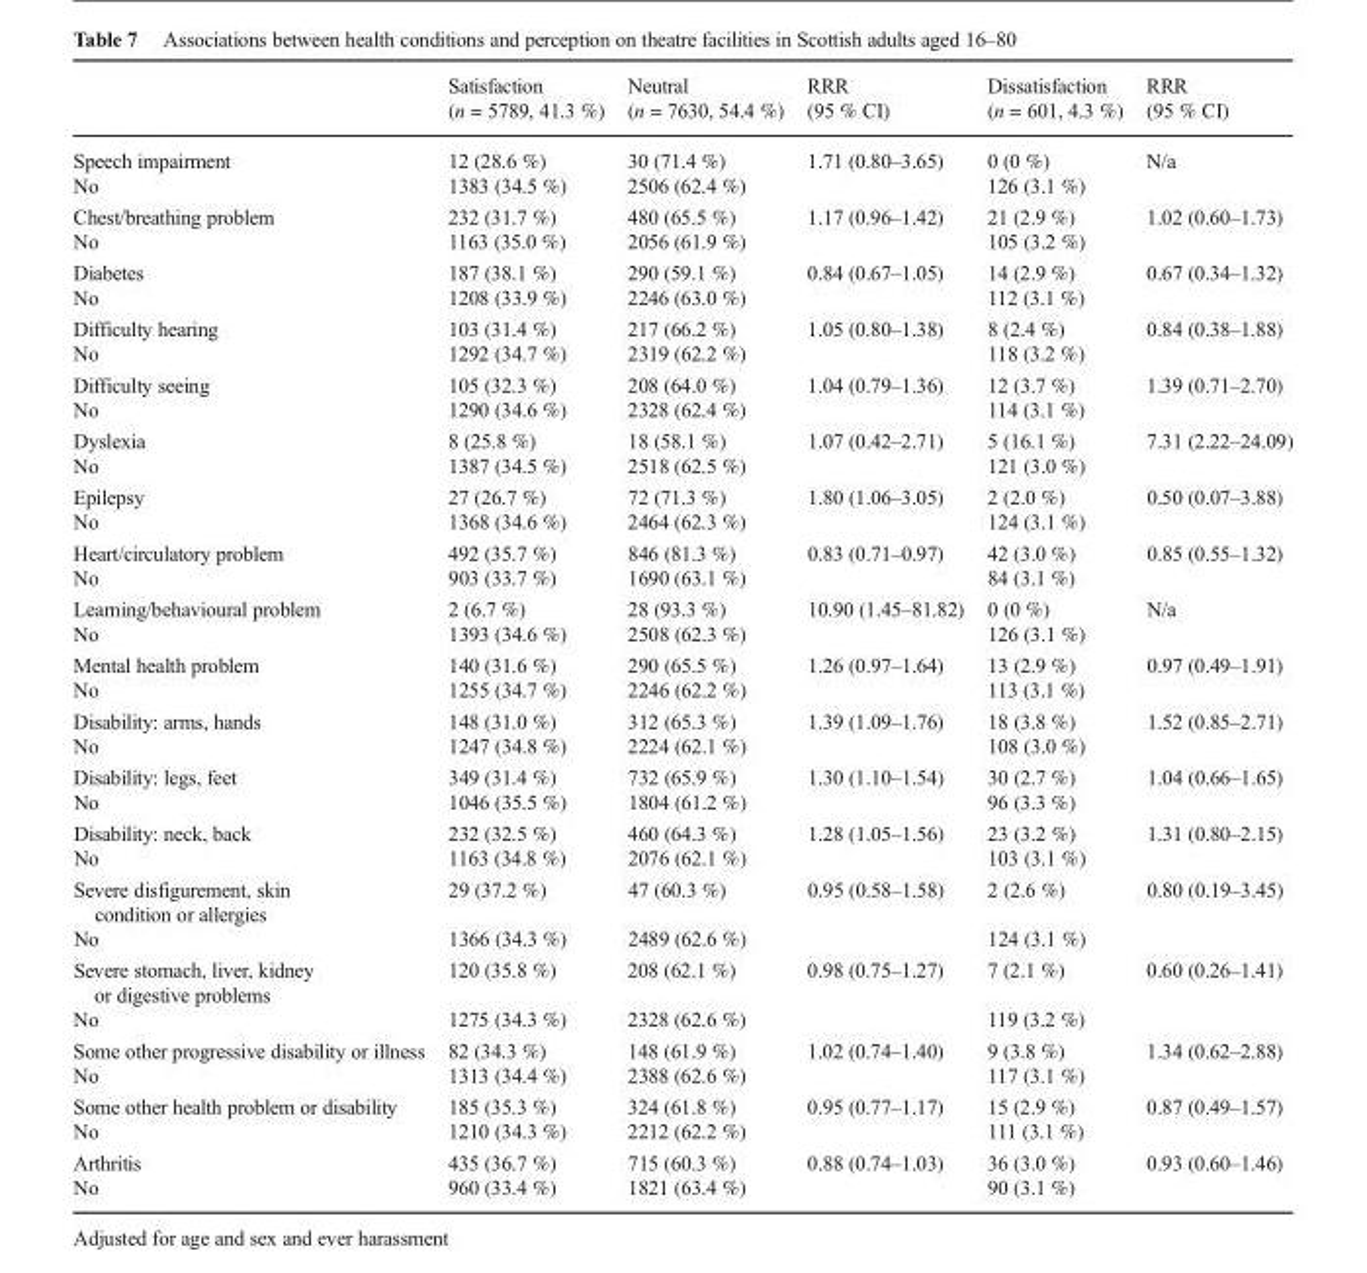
<table><thead><tr><td></td><td>Satisfaction (n = 5789, 41.3 %)</td><td>Neutral (n = 7630, 54.4 %)</td><td>RRR (95 % CI)</td><td>Dissatisfaction (n = 601, 4.3 %)</td><td>RRR (95 % CI)</td></tr></thead><tbody><tr><td>Speech impairment</td><td>12 (28.6 %)</td><td>30 (71.4 %)</td><td rowspan="2">1.71 (0.80–3.65)</td><td>0 (0 %)</td><td rowspan="2">N/a</td></tr><tr><td>No</td><td>1383 (34.5 %)</td><td>2506 (62.4 %)</td><td>126 (3.1 %)</td></tr><tr><td>Chest/breathing problem</td><td>232 (31.7 %)</td><td>480 (65.5 %)</td><td rowspan="2">1.17 (0.96–1.42)</td><td>21 (2.9 %)</td><td rowspan="2">1.02 (0.60–1.73)</td></tr><tr><td>No</td><td>1163 (35.0 %)</td><td>2056 (61.9 %)</td><td>105 (3.2 %)</td></tr><tr><td>Diabetes</td><td>187 (38.1 %)</td><td>290 (59.1 %)</td><td rowspan="2">0.84 (0.67–1.05)</td><td>14 (2.9 %)</td><td rowspan="2">0.67 (0.34–1.32)</td></tr><tr><td>No</td><td>1208 (33.9 %)</td><td>2246 (63.0 %)</td><td>112 (3.1 %)</td></tr><tr><td>Difficulty hearing</td><td>103 (31.4 %)</td><td>217 (66.2 %)</td><td rowspan="2">1.05 (0.80–1.38)</td><td>8 (2.4 %)</td><td rowspan="2">0.84 (0.38–1.88)</td></tr><tr><td>No</td><td>1292 (34.7 %)</td><td>2319 (62.2 %)</td><td>118 (3.2 %)</td></tr><tr><td>Difficulty seeing</td><td>105 (32.3 %)</td><td>208 (64.0 %)</td><td rowspan="2">1.04 (0.79–1.36)</td><td>12 (3.7 %)</td><td rowspan="2">1.39 (0.71–2.70)</td></tr><tr><td>No</td><td>1290 (34.6 %)</td><td>2328 (62.4 %)</td><td>114 (3.1 %)</td></tr><tr><td>Dyslexia</td><td>8 (25.8 %)</td><td>18 (58.1 %)</td><td rowspan="2">1.07 (0.42–2.71)</td><td>5 (16.1 %)</td><td rowspan="2">7.31 (2.22–24.09)</td></tr><tr><td>No</td><td>1387 (34.5 %)</td><td>2518 (62.5 %)</td><td>121 (3.0 %)</td></tr><tr><td>Epilepsy</td><td>27 (26.7 %)</td><td>72 (71.3 %)</td><td rowspan="2">1.80 (1.06–3.05)</td><td>2 (2.0 %)</td><td rowspan="2">0.50 (0.07–3.88)</td></tr><tr><td>No</td><td>1368 (34.6 %)</td><td>2464 (62.3 %)</td><td>124 (3.1 %)</td></tr><tr><td>Heart/circulatory problem</td><td>492 (35.7 %)</td><td>846 (81.3 %)</td><td rowspan="2">0.83 (0.71–0.97)</td><td>42 (3.0 %)</td><td rowspan="2">0.85 (0.55–1.32)</td></tr><tr><td>No</td><td>903 (33.7 %)</td><td>1690 (63.1 %)</td><td>84 (3.1 %)</td></tr><tr><td>Learning/behavioural problem</td><td>2 (6.7 %)</td><td>28 (93.3 %)</td><td rowspan="2">10.90 (1.45–81.82)</td><td>0 (0 %)</td><td rowspan="2">N/a</td></tr><tr><td>No</td><td>1393 (34.6 %)</td><td>2508 (62.3 %)</td><td>126 (3.1 %)</td></tr><tr><td>Mental health problem</td><td>140 (31.6 %)</td><td>290 (65.5 %)</td><td rowspan="2">1.26 (0.97–1.64)</td><td>13 (2.9 %)</td><td rowspan="2">0.97 (0.49–1.91)</td></tr><tr><td>No</td><td>1255 (34.7 %)</td><td>2246 (62.2 %)</td><td>113 (3.1 %)</td></tr><tr><td>Disability: arms, hands</td><td>148 (31.0 %)</td><td>312 (65.3 %)</td><td rowspan="2">1.39 (1.09–1.76)</td><td>18 (3.8 %)</td><td rowspan="2">1.52 (0.85–2.71)</td></tr><tr><td>No</td><td>1247 (34.8 %)</td><td>2224 (62.1 %)</td><td>108 (3.0 %)</td></tr><tr><td>Disability: legs, feet</td><td>349 (31.4 %)</td><td>732 (65.9 %)</td><td rowspan="2">1.30 (1.10–1.54)</td><td>30 (2.7 %)</td><td rowspan="2">1.04 (0.66–1.65)</td></tr><tr><td>No</td><td>1046 (35.5 %)</td><td>1804 (61.2 %)</td><td>96 (3.3 %)</td></tr><tr><td>Disability: neck, back</td><td>232 (32.5 %)</td><td>460 (64.3 %)</td><td rowspan="2">1.28 (1.05–1.56)</td><td>23 (3.2 %)</td><td rowspan="2">1.31 (0.80–2.15)</td></tr><tr><td>No</td><td>1163 (34.8 %)</td><td>2076 (62.1 %)</td><td>103 (3.1 %)</td></tr><tr><td>Severe disfigurement, skin condition or allergies</td><td>29 (37.2 %)</td><td>47 (60.3 %)</td><td rowspan="2">0.95 (0.58–1.58)</td><td>2 (2.6 %)</td><td rowspan="2">0.80 (0.19–3.45)</td></tr><tr><td>No</td><td>1366 (34.3 %)</td><td>2489 (62.6 %)</td><td>124 (3.1 %)</td></tr><tr><td>Severe stomach, liver, kidney or digestive problems</td><td>120 (35.8 %)</td><td>208 (62.1 %)</td><td rowspan="2">0.98 (0.75–1.27)</td><td>7 (2.1 %)</td><td rowspan="2">0.60 (0.26–1.41)</td></tr><tr><td>No</td><td>1275 (34.3 %)</td><td>2328 (62.6 %)</td><td>119 (3.2 %)</td></tr><tr><td>Some other progressive disability or illness</td><td>82 (34.3 %)</td><td>148 (61.9 %)</td><td rowspan="2">1.02 (0.74–1.40)</td><td>9 (3.8 %)</td><td rowspan="2">1.34 (0.62–2.88)</td></tr><tr><td>No</td><td>1313 (34.4 %)</td><td>2388 (62.6 %)</td><td>117 (3.1 %)</td></tr><tr><td>Some other health problem or disability</td><td>185 (35.3 %)</td><td>324 (61.8 %)</td><td rowspan="2">0.95 (0.77–1.17)</td><td>15 (2.9 %)</td><td rowspan="2">0.87 (0.49–1.57)</td></tr><tr><td>No</td><td>1210 (34.3 %)</td><td>2212 (62.2 %)</td><td>111 (3.1 %)</td></tr><tr><td>Arthritis</td><td>435 (36.7 %)</td><td>715 (60.3 %)</td><td rowspan="2">0.88 (0.74–1.03)</td><td>36 (3.0 %)</td><td rowspan="2">0.93 (0.60–1.46)</td></tr><tr><td>No</td><td>960 (33.4 %)</td><td>1821 (63.4 %)</td><td>90 (3.1 %)</td></tr></tbody></table>